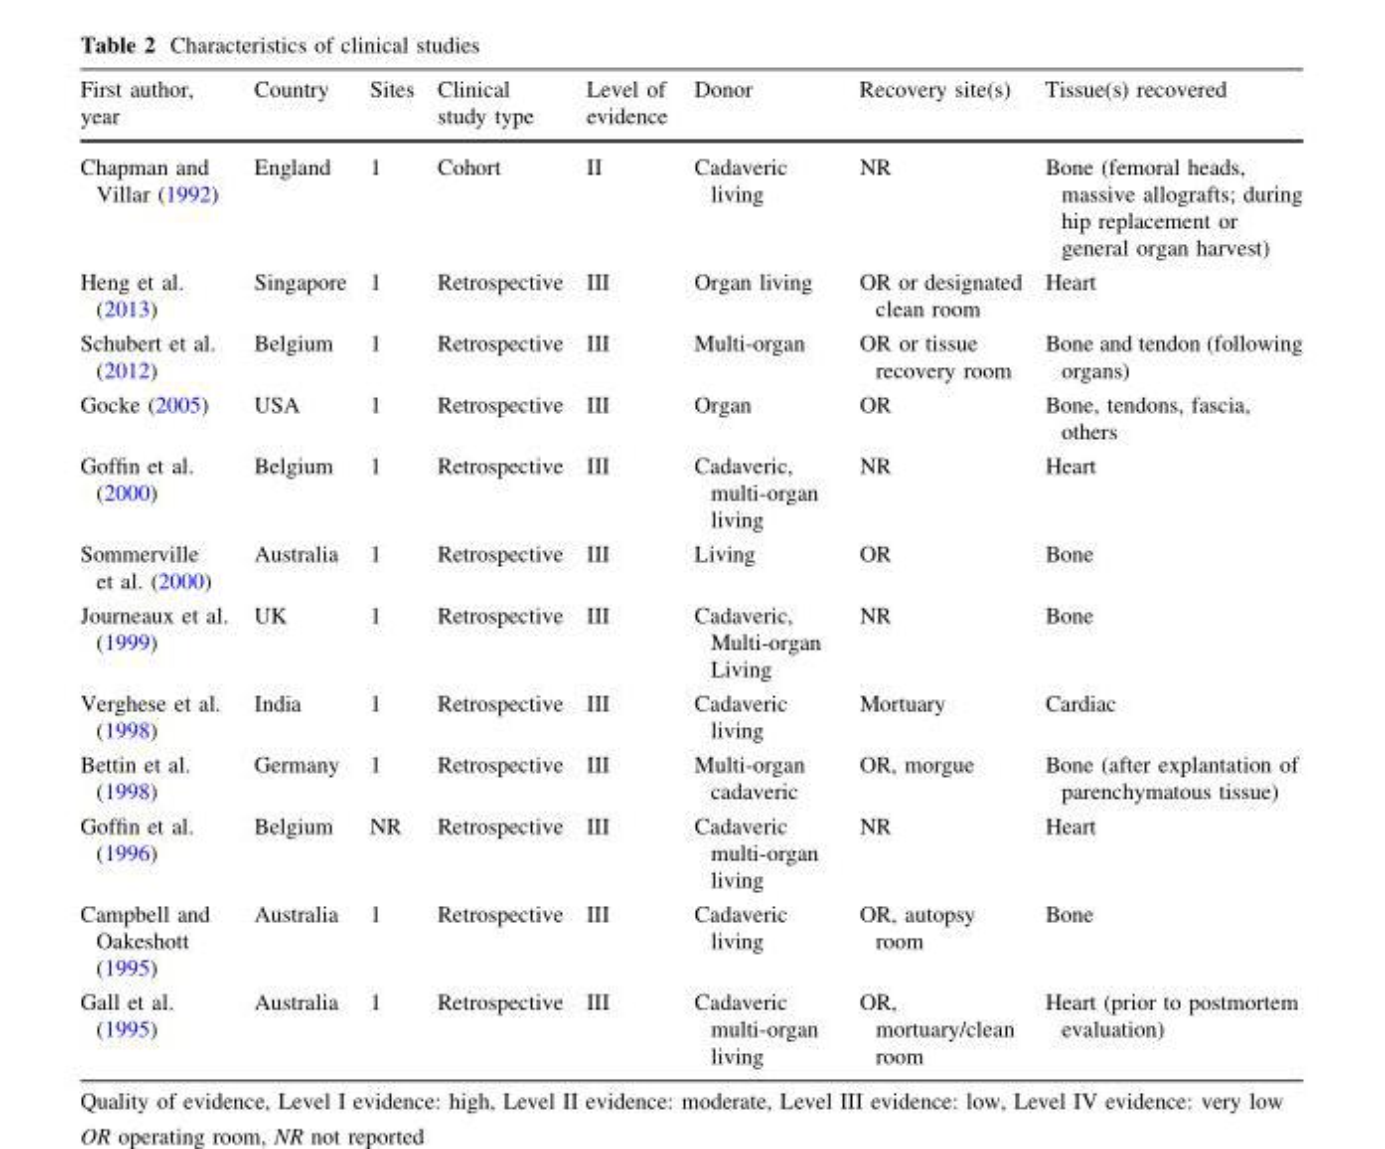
<table><thead><tr><td>First author, year</td><td>Country</td><td>Sites</td><td>Clinical study type</td><td>Level of evidence</td><td>Donor</td><td>Recovery site(s)</td><td>Tissue(s) recovered</td></tr></thead><tbody><tr><td>Chapman and Villar (1992)</td><td>England</td><td>1</td><td>Cohort</td><td>II</td><td>Cadaveric living</td><td>NR</td><td>Bone (femoral heads, massive allografts; during hip replacement or general organ harvest)</td></tr><tr><td>Heng et al. (2013)</td><td>Singapore</td><td>1</td><td>Retrospective</td><td>III</td><td>Organ living</td><td>OR or designated clean room</td><td>Heart</td></tr><tr><td>Schubert et al. (2012)</td><td>Belgium</td><td>1</td><td>Retrospective</td><td>III</td><td>Multi-organ</td><td>OR or tissue recovery room</td><td>Bone and tendon (following organs)</td></tr><tr><td>Gocke (2005)</td><td>USA</td><td>1</td><td>Retrospective</td><td>III</td><td>Organ</td><td>OR</td><td>Bone, tendons, fascia, others</td></tr><tr><td>Goffin et al. (2000)</td><td>Belgium</td><td>1</td><td>Retrospective</td><td>III</td><td>Cadaveric, multi-organ living</td><td>NR</td><td>Heart</td></tr><tr><td>Sommerville et al. (2000)</td><td>Australia</td><td>1</td><td>Retrospective</td><td>III</td><td>Living</td><td>OR</td><td>Bone</td></tr><tr><td>Journeaux et al. (1999)</td><td>UK</td><td>1</td><td>Retrospective</td><td>III</td><td>Cadaveric, Multi-organ Living</td><td>NR</td><td>Bone</td></tr><tr><td>Verghese et al. (1998)</td><td>India</td><td>1</td><td>Retrospective</td><td>III</td><td>Cadaveric living</td><td>Mortuary</td><td>Cardiac</td></tr><tr><td>Bettin et al. (1998)</td><td>Germany</td><td>1</td><td>Retrospective</td><td>III</td><td>Multi-organ cadaveric</td><td>OR, morgue</td><td>Bone (after explantation of parenchymatous tissue)</td></tr><tr><td>Goffin et al. (1996)</td><td>Belgium</td><td>NR</td><td>Retrospective</td><td>III</td><td>Cadaveric multi-organ living</td><td>NR</td><td>Heart</td></tr><tr><td>Campbell and Oakeshott (1995)</td><td>Australia</td><td>1</td><td>Retrospective</td><td>III</td><td>Cadaveric living</td><td>OR, autopsy room</td><td>Bone</td></tr><tr><td>Gall et al. (1995)</td><td>Australia</td><td>1</td><td>Retrospective</td><td>III</td><td>Cadaveric multi-organ living</td><td>OR, mortuary/clean room</td><td>Heart (prior to postmortem evaluation)</td></tr></tbody></table>